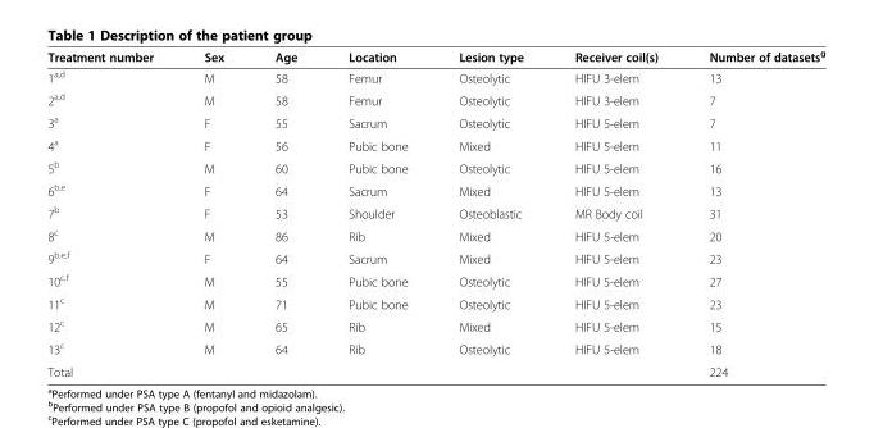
<table><thead><tr><td>Treatment number</td><td>Sex</td><td>Age</td><td>Location</td><td>Lesion type</td><td>Receiver coil(s)</td><td>Number of datasets<sup>g</sup></td></tr></thead><tbody><tr><td>1<sup>a,d</sup></td><td>M</td><td>58</td><td>Femur</td><td>Osteolytic</td><td>HIFU 3-elem</td><td>13</td></tr><tr><td>2<sup>a,d</sup></td><td>M</td><td>58</td><td>Femur</td><td>Osteolytic</td><td>HIFU 3-elem</td><td>7</td></tr><tr><td>3<sup>a</sup></td><td>F</td><td>55</td><td>Sacrum</td><td>Osteolytic</td><td>HIFU 5-elem</td><td>7</td></tr><tr><td>4<sup>a</sup></td><td>F</td><td>56</td><td>Pubic bone</td><td>Mixed</td><td>HIFU 5-elem</td><td>11</td></tr><tr><td>5<sup>b</sup></td><td>M</td><td>60</td><td>Pubic bone</td><td>Osteolytic</td><td>HIFU 5-elem</td><td>16</td></tr><tr><td>6<sup>b,e</sup></td><td>F</td><td>64</td><td>Sacrum</td><td>Mixed</td><td>HIFU 5-elem</td><td>13</td></tr><tr><td>7<sup>b</sup></td><td>F</td><td>53</td><td>Shoulder</td><td>Osteoblastic</td><td>MR Body coil</td><td>31</td></tr><tr><td>8<sup>c</sup></td><td>M</td><td>86</td><td>Rib</td><td>Mixed</td><td>HIFU 5-elem</td><td>20</td></tr><tr><td>9<sup>b,e,f</sup></td><td>F</td><td>64</td><td>Sacrum</td><td>Mixed</td><td>HIFU 5-elem</td><td>23</td></tr><tr><td>10<sup>c,f</sup></td><td>M</td><td>55</td><td>Pubic bone</td><td>Osteolytic</td><td>HIFU 5-elem</td><td>27</td></tr><tr><td>11<sup>c</sup></td><td>M</td><td>71</td><td>Pubic bone</td><td>Osteolytic</td><td>HIFU 5-elem</td><td>23</td></tr><tr><td>12<sup>c</sup></td><td>M</td><td>65</td><td>Rib</td><td>Mixed</td><td>HIFU 5-elem</td><td>15</td></tr><tr><td>13<sup>c</sup></td><td>M</td><td>64</td><td>Rib</td><td>Osteolytic</td><td>HIFU 5-elem</td><td>18</td></tr><tr><td>Total</td><td></td><td></td><td></td><td></td><td></td><td>224</td></tr></tbody></table>